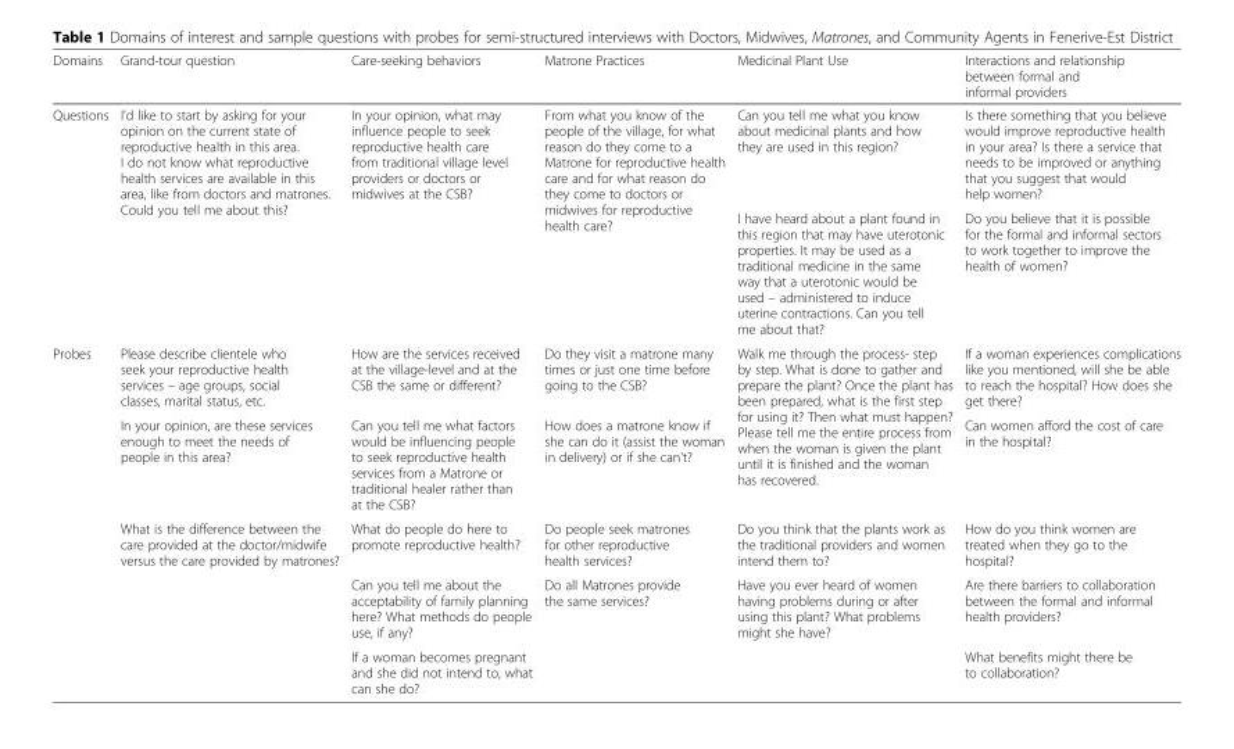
<table><thead><tr><td>Domains</td><td>Grand-tour question</td><td>Care-seeking behaviors</td><td>Matrone Practices</td><td>Medicinal Plant Use</td><td>Interactions and relationship between formal and informal providers</td></tr></thead><tbody><tr><td rowspan="2">Questions</td><td rowspan="2">I&#x27;d like to start by asking for your opinion on the current state of reproductive health in this area. I do not know what reproductive health services are available in this area, like from doctors and matrones. Could you tell me about this?</td><td rowspan="2">In your opinion, what may influence people to seek reproductive health care from traditional village level providers or doctors or midwives at the CSB?</td><td rowspan="2">From what you know of the people of the village, for what reason do they come to a Matrone for reproductive health care and for what reason do they come to doctors or midwives for reproductive health care?</td><td>Can you tell me what you know about medicinal plants and how they are used in this region?</td><td>Is there something that you believe would improve reproductive health in your area? Is there a service that needs to be improved or anything that you suggest that would help women?</td></tr><tr><td>I have heard about a plant found in this region that may have uterotonic properties. It may be used as a traditional medicine in the same way that a uterotonic would be used – administered to induce uterine contractions. Can you tell me about that?</td><td>Do you believe that it is possible for the formal and informal sectors to work together to improve the health of women?</td></tr><tr><td rowspan="5">Probes</td><td>Please describe clientele who seek your reproductive health services – age groups, social classes, marital status, etc.</td><td>How are the services received at the village-level and at the CSB the same or different?</td><td>Do they visit a matrone many times or just one time before going to the CSB?</td><td rowspan="2">Walk me through the process- step by step. What is done to gather and prepare the plant? Once the plant has been prepared, what is the first step for using it? Then what must happen? Please tell me the entire process from when the woman is given the plant until it is finished and the woman has recovered.</td><td>If a woman experiences complications like you mentioned, will she be able to reach the hospital? How does she get there?</td></tr><tr><td>In your opinion, are these services enough to meet the needs of people in this area?</td><td>Can you tell me what factors would be influencing people to seek reproductive health services from a Matrone or traditional healer rather than at the CSB?</td><td>How does a matrone know if she can do it (assist the woman in delivery) or if she can&#x27;t?</td><td>Can women afford the cost of care in the hospital?</td></tr><tr><td rowspan="3">What is the difference between the care provided at the doctor/midwife versus the care provided by matrones?</td><td>What do people do here to promote reproductive health?</td><td>Do people seek matrones for other reproductive health services?</td><td>Do you think that the plants work as the traditional providers and women intend them to?</td><td>How do you think women are treated when they go to the hospital?</td></tr><tr><td>Can you tell me about the acceptability of family planning here? What methods do people use, if any?</td><td rowspan="2">Do all Matrones provide the same services?</td><td rowspan="2">Have you ever heard of women having problems during or after using this plant? What problems might she have?</td><td>Are there barriers to collaboration between the formal and informal health providers?</td></tr><tr><td>If a woman becomes pregnant and she did not intend to, what can she do?</td><td>What benefits might there be to collaboration?</td></tr></tbody></table>